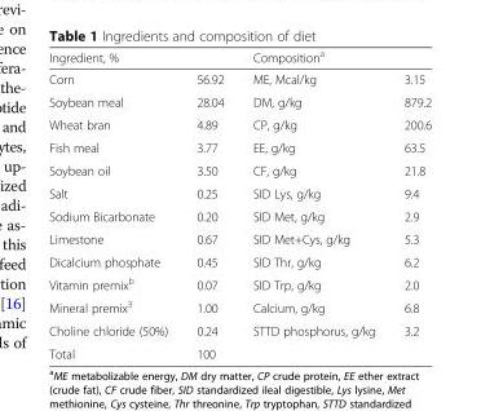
<table><thead><tr><td colspan="2">Ingredient, %</td><td colspan="2">Composition<sup>a</sup></td></tr><tr><td>Corn</td><td>56.92</td><td>ME, Mcal/kg</td><td>3.15</td></tr></thead><tbody><tr><td>Soybean meal</td><td>28.04</td><td>DM, g/kg</td><td>879.2</td></tr><tr><td>Wheat bran</td><td>4.89</td><td>CP, g/kg</td><td>200.6</td></tr><tr><td>Fish meal</td><td>3.77</td><td>EE, g/kg</td><td>63.5</td></tr><tr><td>Soybean oil</td><td>3.50</td><td>CF, g/kg</td><td>21.8</td></tr><tr><td>Salt</td><td>0.25</td><td>SID Lys, g/kg</td><td>9.4</td></tr><tr><td>Sodium Bicarbonate</td><td>0.20</td><td>SID Met, g/kg</td><td>2.9</td></tr><tr><td>Limestone</td><td>0.67</td><td>SID Met+Cys, g/kg</td><td>5.3</td></tr><tr><td>Dicalcium phosphate</td><td>0.45</td><td>SID Thr, g/kg</td><td>6.2</td></tr><tr><td>Vitamin premix<sup>b</sup></td><td>0.07</td><td>SID Trp, g/kg</td><td>2.0</td></tr><tr><td>Mineral premix<sup>3</sup></td><td>1.00</td><td>Calcium, g/kg</td><td>6.8</td></tr><tr><td>Choline chloride (50%)</td><td>0.24</td><td>STTD phosphorus, g/kg</td><td>3.2</td></tr><tr><td>Total</td><td>100</td><td></td><td></td></tr></tbody></table>